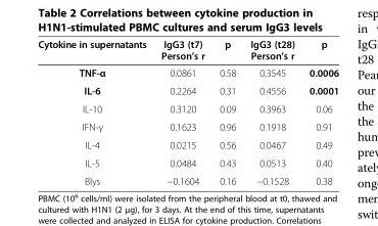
<table><thead><tr><td>Cytokine in supernatants</td><td>IgG3 (t7) Person’s r</td><td>p</td><td>IgG3 (t28) Person’s r</td><td>p</td></tr></thead><tbody><tr><td>TNF-α</td><td>0.0861</td><td>0.58</td><td>0.3545</td><td>0.0006</td></tr><tr><td>IL-6</td><td>0.2264</td><td>0.31</td><td>0.4556</td><td>0.0001</td></tr><tr><td>IL-10</td><td>0.3120</td><td>0.09</td><td>0.3963</td><td>0.06</td></tr><tr><td>IFN-γ</td><td>0.1623</td><td>0.96</td><td>0.1918</td><td>0.91</td></tr><tr><td>IL-4</td><td>0.0215</td><td>0.56</td><td>0.0467</td><td>0.49</td></tr><tr><td>IL-5</td><td>0.0484</td><td>0.43</td><td>0.0513</td><td>0.40</td></tr><tr><td>Blys</td><td>−0.1604</td><td>0.16</td><td>−0.1528</td><td>0.38</td></tr></tbody></table>